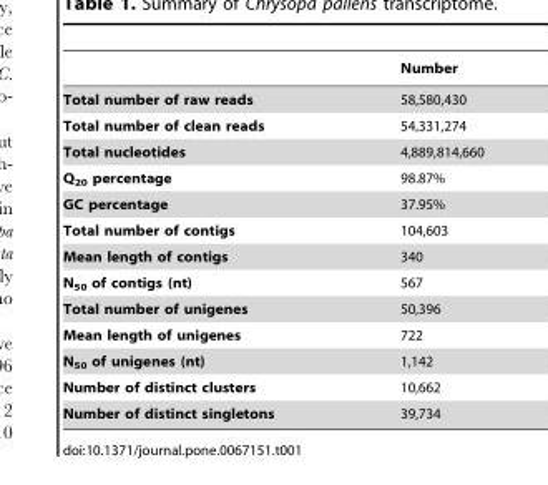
<table><thead><tr><td></td><td>Number</td></tr></thead><tbody><tr><td>Total number of raw reads</td><td>58,580,430</td></tr><tr><td>Total number of clean reads</td><td>54,331,274</td></tr><tr><td>Total nucleotides</td><td>4,889,814,660</td></tr><tr><td>Q<sub>20</sub> percentage</td><td>98.87%</td></tr><tr><td>GC percentage</td><td>37.95%</td></tr><tr><td>Total number of contigs</td><td>104,603</td></tr><tr><td>Mean length of contigs</td><td>340</td></tr><tr><td>N<sub>50</sub> of contigs (nt)</td><td>567</td></tr><tr><td>Total number of unigenes</td><td>50,396</td></tr><tr><td>Mean length of unigenes</td><td>722</td></tr><tr><td>N<sub>50</sub> of unigenes (nt)</td><td>1,142</td></tr><tr><td>Number of distinct clusters</td><td>10,662</td></tr><tr><td>Number of distinct singletons</td><td>39,734</td></tr></tbody></table>